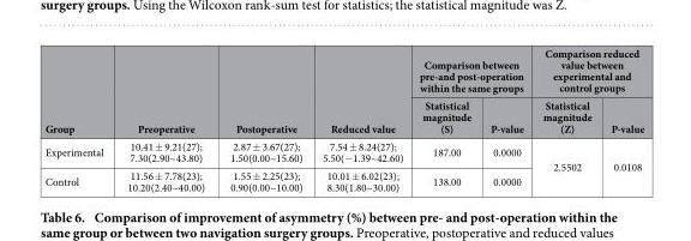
<table><thead><tr><td rowspan="2">Group</td><td rowspan="2">Preoperative</td><td rowspan="2">Postoperative</td><td rowspan="2">Reduced value</td><td colspan="2">Comparison between pre-and post-operation within the same groups</td><td colspan="2">Comparison reduced value between experimental and control groups</td></tr><tr><td>Statistical magnitude (S)</td><td>P-value</td><td>Statistical magnitude (Z)</td><td>P-value</td></tr></thead><tbody><tr><td>Experimental</td><td>10.41 ± 9.21(27); 7.30(2.90~43.80)</td><td>2.87 ± 3.67(27); 1.50(0.00~15.60)</td><td>7.54 ± 8.24(27); 5.50(− 1.39~42.60)</td><td>187.00</td><td>0.0000</td><td rowspan="2">2.5502</td><td rowspan="2">0.0108</td></tr><tr><td>Control</td><td>11.56 ± 7.78(23); 10.20(2.40~40.00)</td><td>1.55 ± 2.25(23); 0.90(0.00~10.00)</td><td>10.01 ± 6.02(23); 8.30(1.80~30.00)</td><td>138.00</td><td>0.0000</td></tr></tbody></table>